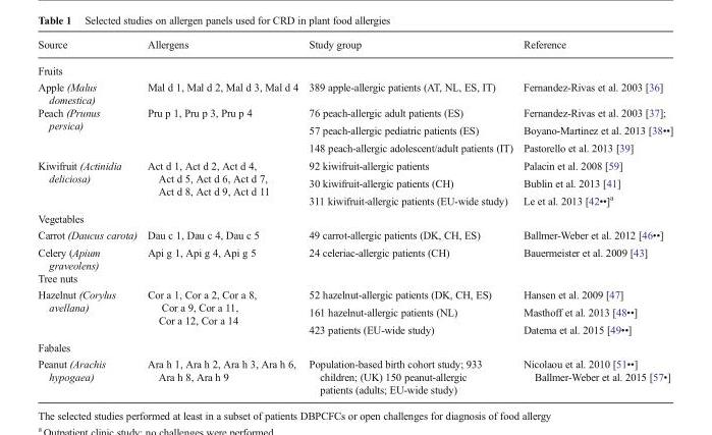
<table><thead><tr><td>Source</td><td>Allergens</td><td>Study group</td><td>Reference</td></tr></thead><tbody><tr><td colspan="4">Fruits</td></tr><tr><td>Apple (Malus domestica)</td><td>Mal d 1, Mal d 2, Mal d 3, Mal d 4</td><td>389 apple-allergic patients (AT, NL, ES, IT)</td><td>Fernandez-Rivas et al. 2003 [36]</td></tr><tr><td rowspan="3">Peach (Prunus persica)</td><td rowspan="3">Pru p 1, Pru p 3, Pru p 4</td><td>76 peach-allergic adult patients (ES)</td><td>Fernandez-Rivas et al. 2003 [37];</td></tr><tr><td>57 peach-allergic pediatric patients (ES)</td><td>Boyano-Martinez et al. 2013 [38••]</td></tr><tr><td>148 peach-allergic adolescent/adult patients (IT)</td><td>Pastorello et al. 2013 [39]</td></tr><tr><td rowspan="3">Kiwifruit (Actinidia deliciosa)</td><td rowspan="3">Act d 1, Act d 2, Act d 4, Act d 5, Act d 6, Act d 7, Act d 8, Act d 9, Act d 11</td><td>92 kiwifruit-allergic patients</td><td>Palacin et al. 2008 [59]</td></tr><tr><td>30 kiwifruit-allergic patients (CH)</td><td>Bublin et al. 2013 [41]</td></tr><tr><td>311 kiwifruit-allergic patients (EU-wide study)</td><td>Le et al. 2013 [42••]<sup>a</sup></td></tr><tr><td colspan="4">Vegetables</td></tr><tr><td>Carrot (Daucus carota)</td><td>Dau c 1, Dau c 4, Dau c 5</td><td>49 carrot-allergic patients (DK, CH, ES)</td><td>Ballmer-Weber et al. 2012 [46••]</td></tr><tr><td>Celery (Apium graveolens)</td><td>Api g 1, Api g 4, Api g 5</td><td>24 celeriac-allergic patients (CH)</td><td>Bauermeister et al. 2009 [43]</td></tr><tr><td colspan="4">Tree nuts</td></tr><tr><td rowspan="3">Hazelnut (Corylus avellana)</td><td rowspan="3">Cor a 1, Cor a 2, Cor a 8, Cor a 9, Cor a 11, Cor a 12, Cor a 14</td><td>52 hazelnut-allergic patients (DK, CH, ES)</td><td>Hansen et al. 2009 [47]</td></tr><tr><td>161 hazelnut-allergic patients (NL)</td><td>Masthoff et al. 2013 [48••]</td></tr><tr><td>423 patients (EU-wide study)</td><td>Datema et al. 2015 [49••]</td></tr><tr><td colspan="4">Fabales</td></tr><tr><td>Peanut (Arachis hypogaea)</td><td>Ara h 1, Ara h 2, Ara h 3, Ara h 6, Ara h 8, Ara h 9</td><td>Population-based birth cohort study; 933 children; (UK) 150 peanut-allergic patients (adults; EU-wide study)</td><td>Nicolaou et al. 2010 [51••] Ballmer-Weber et al. 2015 [57•]</td></tr></tbody></table>